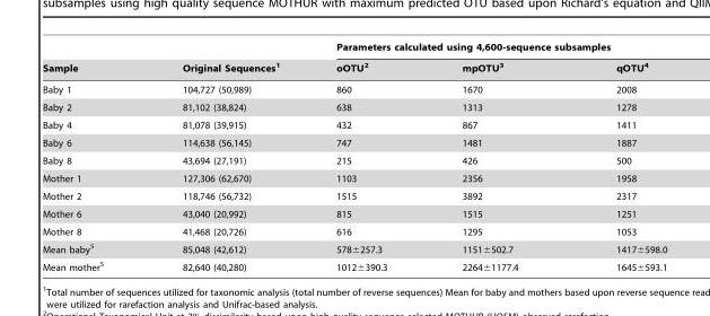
<table><thead><tr><td rowspan="2">Sample</td><td rowspan="2">Original Sequences<sup>1</sup></td><td colspan="3">Parameters calculated using 4,600-sequence subsamples</td></tr><tr><td>oOTU<sup>2</sup></td><td>mpOTU<sup>3</sup></td><td>qOTU<sup>4</sup></td></tr></thead><tbody><tr><td>Baby 1</td><td>104,727 (50,989)</td><td>860</td><td>1670</td><td>2008</td></tr><tr><td>Baby 2</td><td>81,102 (38,824)</td><td>638</td><td>1313</td><td>1278</td></tr><tr><td>Baby 4</td><td>81,078 (39,915)</td><td>432</td><td>867</td><td>1411</td></tr><tr><td>Baby 6</td><td>114,638 (56,145)</td><td>747</td><td>1481</td><td>1887</td></tr><tr><td>Baby 8</td><td>43,694 (27,191)</td><td>215</td><td>426</td><td>500</td></tr><tr><td>Mother 1</td><td>127,306 (62,670)</td><td>1103</td><td>2356</td><td>1958</td></tr><tr><td>Mother 2</td><td>118,746 (56,732)</td><td>1515</td><td>3892</td><td>2317</td></tr><tr><td>Mother 6</td><td>43,040 (20,992)</td><td>815</td><td>1515</td><td>1251</td></tr><tr><td>Mother 8</td><td>41,468 (20,726)</td><td>616</td><td>1295</td><td>1053</td></tr><tr><td>Mean baby<sup>5</sup></td><td>85,048 (42,612)</td><td>578±257.3</td><td>1151±502.7</td><td>1417±598.0</td></tr><tr><td>Mean mother<sup>5</sup></td><td>82,640 (40,280)</td><td>1012±390.3</td><td>2264±1177.4</td><td>1645±593.1</td></tr></tbody></table>